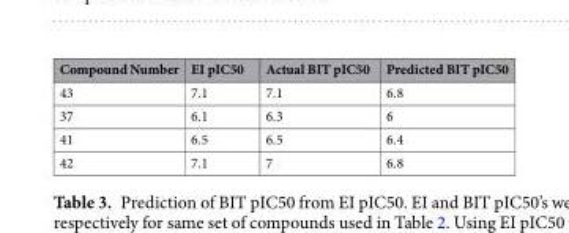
<table><thead><tr><td>Compound Number</td><td>EI pIC50</td><td>Actual BIT pIC50</td><td>Predicted BIT pIC50</td></tr></thead><tbody><tr><td>43</td><td>7.1</td><td>7.1</td><td>6.8</td></tr><tr><td>37</td><td>6.1</td><td>6.3</td><td>6</td></tr><tr><td>41</td><td>6.5</td><td>6.5</td><td>6.4</td></tr><tr><td>42</td><td>7.1</td><td>7</td><td>6.8</td></tr></tbody></table>